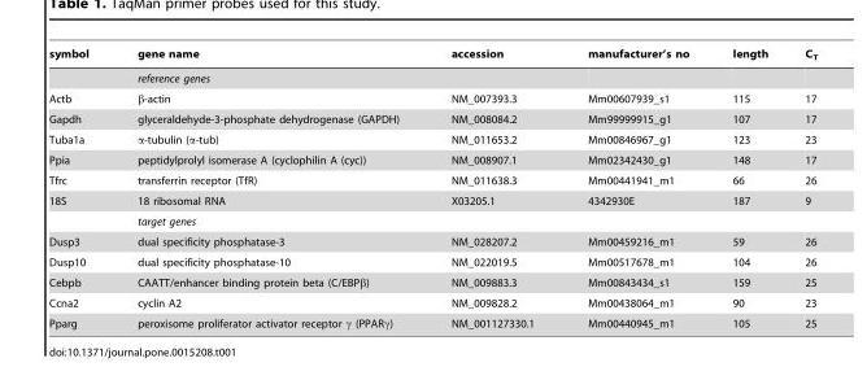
<table><thead><tr><td>symbol</td><td>gene name</td><td>accession</td><td>manufacturer’s no</td><td>length</td><td>C<sub>T</sub></td></tr></thead><tbody><tr><td></td><td>reference genes</td><td></td><td></td><td></td><td></td></tr><tr><td>Actb</td><td>β-actin</td><td>NM_007393.3</td><td>Mm00607939_s1</td><td>115</td><td>17</td></tr><tr><td>Gapdh</td><td>glyceraldehyde-3-phosphate dehydrogenase (GAPDH)</td><td>NM_008084.2</td><td>Mm99999915_g1</td><td>107</td><td>17</td></tr><tr><td>Tuba1a</td><td>α-tubulin (α-tub)</td><td>NM_011653.2</td><td>Mm00846967_g1</td><td>123</td><td>23</td></tr><tr><td>Ppia</td><td>peptidylprolyl isomerase A (cyclophilin A (cyc))</td><td>NM_008907.1</td><td>Mm02342430_g1</td><td>148</td><td>17</td></tr><tr><td>Tfrc</td><td>transferrin receptor (TfR)</td><td>NM_011638.3</td><td>Mm00441941_m1</td><td>66</td><td>26</td></tr><tr><td rowspan="2">18S</td><td>18 ribosomal RNA</td><td>X03205.1</td><td>4342930E</td><td>187</td><td>9</td></tr><tr><td>target genes</td><td></td><td></td><td></td><td></td></tr><tr><td>Dusp3</td><td>dual specificity phosphatase-3</td><td>NM_028207.2</td><td>Mm00459216_m1</td><td>59</td><td>26</td></tr><tr><td>Dusp10</td><td>dual specificity phosphatase-10</td><td>NM_022019.5</td><td>Mm00517678_m1</td><td>104</td><td>26</td></tr><tr><td>Cebpb</td><td>CAATT/enhancer binding protein beta (C/EBPβ)</td><td>NM_009883.3</td><td>Mm00843434_s1</td><td>159</td><td>25</td></tr><tr><td>Ccna2</td><td>cyclin A2</td><td>NM_009828.2</td><td>Mm00438064_m1</td><td>90</td><td>23</td></tr><tr><td>Pparg</td><td>peroxisome proliferator activator receptor γ (PPARγ)</td><td>NM_001127330.1</td><td>Mm00440945_m1</td><td>105</td><td>25</td></tr></tbody></table>